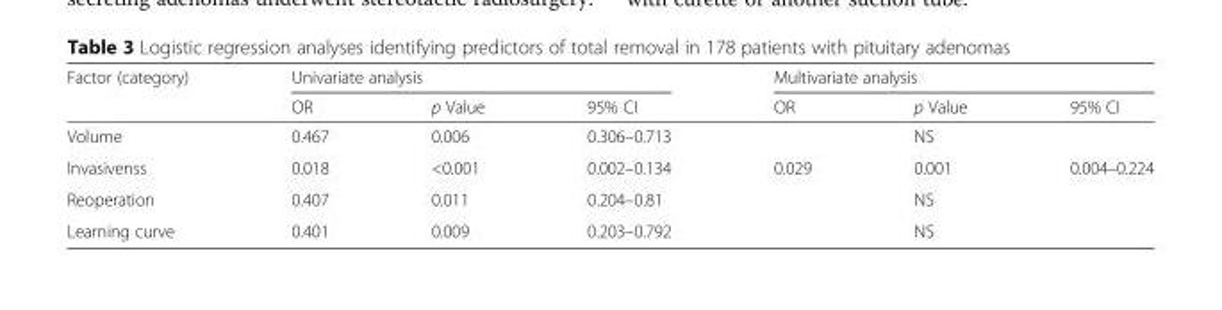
<table><thead><tr><td rowspan="2">Factor (category)</td><td colspan="3">Univariate analysis</td><td colspan="3">Multivariate analysis</td></tr><tr><td>OR</td><td>p Value</td><td>95% CI</td><td>OR</td><td>p Value</td><td>95% CI</td></tr></thead><tbody><tr><td>Volume</td><td>0.467</td><td>0.006</td><td>0.306–0.713</td><td></td><td>NS</td><td></td></tr><tr><td>Invasivenss</td><td>0.018</td><td>&lt;0.001</td><td>0.002–0.134</td><td>0.029</td><td>0.001</td><td>0.004–0.224</td></tr><tr><td>Reoperation</td><td>0.407</td><td>0.011</td><td>0.204–0.81</td><td></td><td>NS</td><td></td></tr><tr><td>Learning curve</td><td>0.401</td><td>0.009</td><td>0.203–0.792</td><td></td><td>NS</td><td></td></tr></tbody></table>